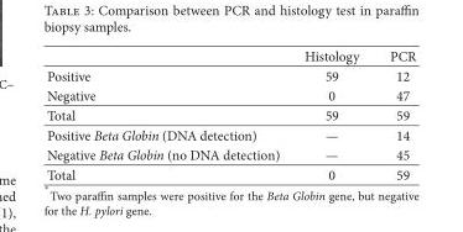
<table><thead><tr><td></td><td>Histology</td><td>PCR</td></tr></thead><tbody><tr><td>Positive</td><td>59</td><td>12</td></tr><tr><td>Negative</td><td>0</td><td>47</td></tr><tr><td>Total</td><td>59</td><td>59</td></tr><tr><td>Positive Beta Globin (DNA detection)</td><td>—</td><td>14</td></tr><tr><td>Negative Beta Globin (no DNA detection)</td><td>—</td><td>45</td></tr><tr><td>Total</td><td>0</td><td>59</td></tr></tbody></table>